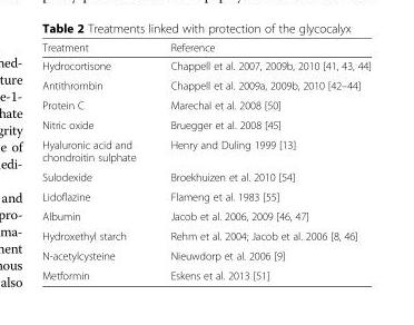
<table><thead><tr><td>Treatment</td><td>Reference</td></tr></thead><tbody><tr><td>Hydrocortisone</td><td>Chappell et al. 2007, 2009b, 2010 [41, 43, 44]</td></tr><tr><td>Antithrombin</td><td>Chappell et al. 2009a, 2009b, 2010 [42–44]</td></tr><tr><td>Protein C</td><td>Marechal et al. 2008 [50]</td></tr><tr><td>Nitric oxide</td><td>Bruegger et al. 2008 [45]</td></tr><tr><td>Hyaluronic acid and chondroitin sulphate</td><td>Henry and Duling 1999 [13]</td></tr><tr><td>Sulodexide</td><td>Broekhuizen et al. 2010 [54]</td></tr><tr><td>Lidoflazine</td><td>Flameng et al. 1983 [55]</td></tr><tr><td>Albumin</td><td>Jacob et al. 2006, 2009 [46, 47]</td></tr><tr><td>Hydroxethyl starch</td><td>Rehm et al. 2004; Jacob et al. 2006 [8, 46]</td></tr><tr><td>N-acetylcysteine</td><td>Nieuwdorp et al. 2006 [9]</td></tr><tr><td>Metformin</td><td>Eskens et al. 2013 [51]</td></tr></tbody></table>